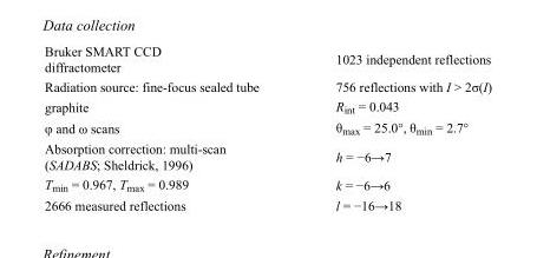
<table><tbody><tr><td>Bruker SMART CCD diffractometer</td><td>1023 independent reflections</td></tr><tr><td>Radiation source: fine-focus sealed tube</td><td>756 reflections with I &gt; 2σ(I)</td></tr><tr><td>graphite</td><td>R<sub>int</sub> = 0.043</td></tr><tr><td>φ and ω scans</td><td>θ<sub>max</sub> = 25.0°, θ<sub>min</sub> = 2.7°</td></tr><tr><td>Absorption correction: multi-scan (SADABS; Sheldrick, 1996)</td><td>h = −6→7</td></tr><tr><td>T<sub>min</sub> = 0.967, T<sub>max</sub> = 0.989</td><td>k = −6→6</td></tr><tr><td>2666 measured reflections</td><td>l = −16→18</td></tr></tbody></table>